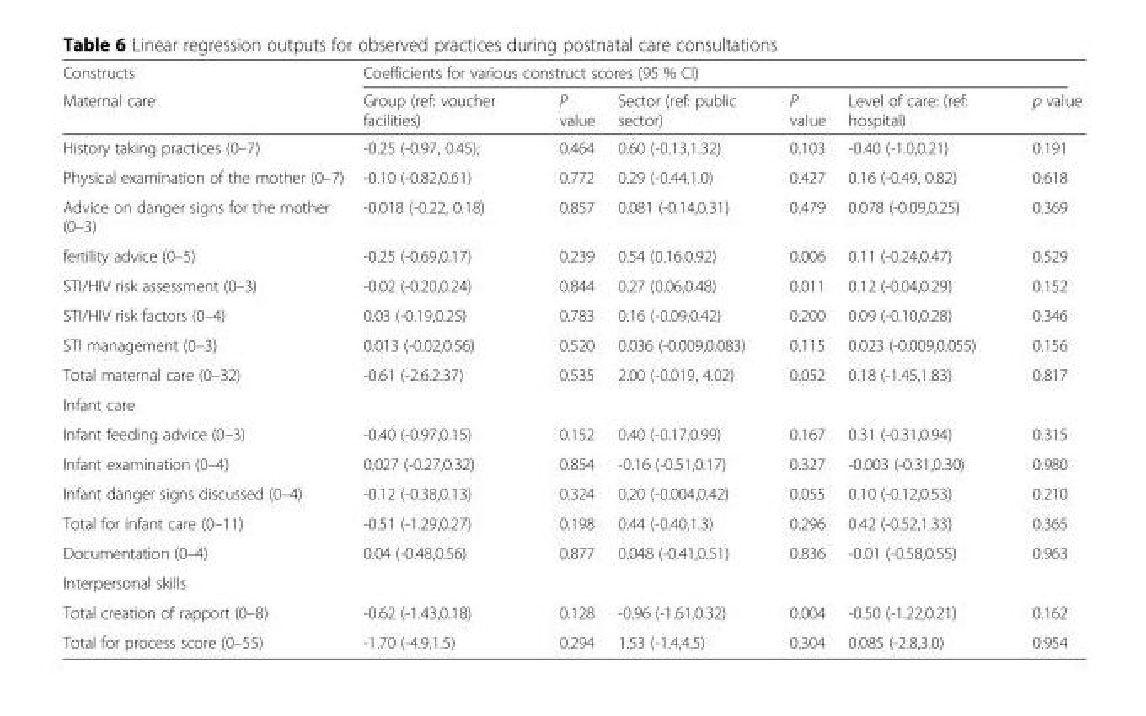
<table><thead><tr><td rowspan="2">Constructs Maternal care</td><td colspan="6">Coefficients for various construct scores (95 % CI)</td></tr><tr><td>Group (ref: voucher facilities)</td><td>P value</td><td>Sector (ref: public sector)</td><td>P value</td><td>Level of care: (ref: hospital)</td><td>p value</td></tr></thead><tbody><tr><td>History taking practices (0–7)</td><td>-0.25 (-0.97, 0.45);</td><td>0.464</td><td>0.60 (-0.13,1.32)</td><td>0.103</td><td>-0.40 (-1.0,0.21)</td><td>0.191</td></tr><tr><td>Physical examination of the mother (0–7)</td><td>-0.10 (-0.82,0.61)</td><td>0.772</td><td>0.29 (-0.44,1.0)</td><td>0.427</td><td>0.16 (-0.49, 0.82)</td><td>0.618</td></tr><tr><td>Advice on danger signs for the mother (0–3)</td><td>-0.018 (-0.22, 0.18)</td><td>0.857</td><td>0.081 (-0.14,0.31)</td><td>0.479</td><td>0.078 (-0.09,0.25)</td><td>0.369</td></tr><tr><td>fertility advice (0–5)</td><td>-0.25 (-0.69,0.17)</td><td>0.239</td><td>0.54 (0.16.0.92)</td><td>0.006</td><td>0.11 (-0.24,0.47)</td><td>0.529</td></tr><tr><td>STI/HIV risk assessment (0–3)</td><td>-0.02 (-0.20,0.24)</td><td>0.844</td><td>0.27 (0.06,0.48)</td><td>0.011</td><td>0.12 (-0.04,0.29)</td><td>0.152</td></tr><tr><td>STI/HIV risk factors (0–4)</td><td>0.03 (-0.19,0.25)</td><td>0.783</td><td>0.16 (-0.09,0.42)</td><td>0.200</td><td>0.09 (-0.10,0.28)</td><td>0.346</td></tr><tr><td>STI management (0–3)</td><td>0.013 (-0.02,0.56)</td><td>0.520</td><td>0.036 (-0.009,0.083)</td><td>0.115</td><td>0.023 (-0.009,0.055)</td><td>0.156</td></tr><tr><td>Total maternal care (0–32)</td><td>-0.61 (-2.6.2.37)</td><td>0.535</td><td>2.00 (-0.019, 4.02)</td><td>0.052</td><td>0.18 (-1.45,1.83)</td><td>0.817</td></tr><tr><td colspan="7">Infant care</td></tr><tr><td>Infant feeding advice (0–3)</td><td>-0.40 (-0.97,0.15)</td><td>0.152</td><td>0.40 (-0.17,0.99)</td><td>0.167</td><td>0.31 (-0.31,0.94)</td><td>0.315</td></tr><tr><td>Infant examination (0–4)</td><td>0.027 (-0.27,0.32)</td><td>0.854</td><td>-0.16 (-0.51,0.17)</td><td>0.327</td><td>-0.003 (-0.31,0.30)</td><td>0.980</td></tr><tr><td>Infant danger signs discussed (0–4)</td><td>-0.12 (-0.38,0.13)</td><td>0.324</td><td>0.20 (-0.004,0.42)</td><td>0.055</td><td>0.10 (-0.12,0.53)</td><td>0.210</td></tr><tr><td>Total for infant care (0–11)</td><td>-0.51 (-1.29,0.27)</td><td>0.198</td><td>0.44 (-0.40,1.3)</td><td>0.296</td><td>0.42 (-0.52,1.33)</td><td>0.365</td></tr><tr><td>Documentation (0–4)</td><td>0.04 (-0.48,0.56)</td><td>0.877</td><td>0.048 (-0.41,0.51)</td><td>0.836</td><td>-0.01 (-0.58,0.55)</td><td>0.963</td></tr><tr><td colspan="7">Interpersonal skills</td></tr><tr><td>Total creation of rapport (0–8)</td><td>-0.62 (-1.43,0.18)</td><td>0.128</td><td>-0.96 (-1.61,0.32)</td><td>0.004</td><td>-0.50 (-1.22,0.21)</td><td>0.162</td></tr><tr><td>Total for process score (0–55)</td><td>-1.70 (-4.9,1.5)</td><td>0.294</td><td>1.53 (-1.4,4.5)</td><td>0.304</td><td>0.085 (-2.8,3.0)</td><td>0.954</td></tr></tbody></table>